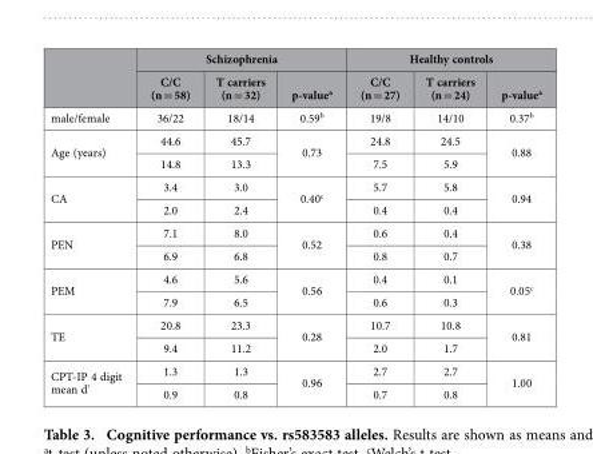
<table><thead><tr><td rowspan="2"></td><td colspan="3">Schizophrenia</td><td colspan="3">Healthy controls</td></tr><tr><td>C/C (n = 58)</td><td>T carriers (n = 32)</td><td>p-value<sup>a</sup></td><td>C/C (n = 27)</td><td>T carriers (n = 24)</td><td>p-value<sup>a</sup></td></tr></thead><tbody><tr><td>male/female</td><td>36/22</td><td>18/14</td><td>0.59<sup>b</sup></td><td>19/8</td><td>14/10</td><td>0.37<sup>b</sup></td></tr><tr><td rowspan="2">Age (years)</td><td>44.6</td><td>45.7</td><td rowspan="2">0.73</td><td>24.8</td><td>24.5</td><td rowspan="2">0.88</td></tr><tr><td>14.8</td><td>13.3</td><td>7.5</td><td>5.9</td></tr><tr><td rowspan="2">CA</td><td>3.4</td><td>3.0</td><td rowspan="2">0.40<sup>c</sup></td><td>5.7</td><td>5.8</td><td rowspan="2">0.94</td></tr><tr><td>2.0</td><td>2.4</td><td>0.4</td><td>0.4</td></tr><tr><td rowspan="2">PEN</td><td>7.1</td><td>8.0</td><td rowspan="2">0.52</td><td>0.6</td><td>0.4</td><td rowspan="2">0.38</td></tr><tr><td>6.9</td><td>6.8</td><td>0.8</td><td>0.7</td></tr><tr><td rowspan="2">PEM</td><td>4.6</td><td>5.6</td><td rowspan="2">0.56</td><td>0.4</td><td>0.1</td><td rowspan="2">0.05<sup>c</sup></td></tr><tr><td>7.9</td><td>6.5</td><td>0.6</td><td>0.3</td></tr><tr><td rowspan="2">TE</td><td>20.8</td><td>23.3</td><td rowspan="2">0.28</td><td>10.7</td><td>10.8</td><td rowspan="2">0.81</td></tr><tr><td>9.4</td><td>11.2</td><td>2.0</td><td>1.7</td></tr><tr><td rowspan="2">CPT-IP 4 digit mean d&#x27;</td><td>1.3</td><td>1.3</td><td rowspan="2">0.96</td><td>2.7</td><td>2.7</td><td rowspan="2">1.00</td></tr><tr><td>0.9</td><td>0.8</td><td>0.7</td><td>0.8</td></tr></tbody></table>